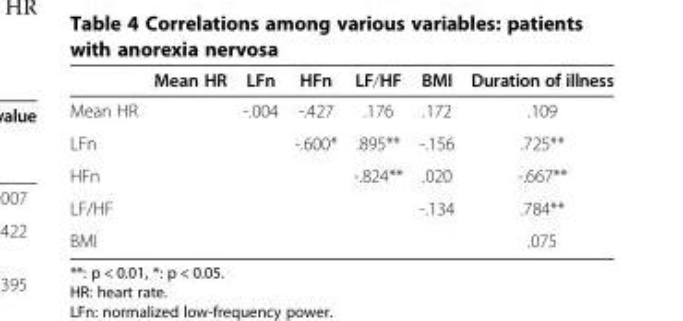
<table><thead><tr><td></td><td>Mean HR</td><td>LFn</td><td>HFn</td><td>LF/HF</td><td>BMI</td><td>Duration of illness</td></tr></thead><tbody><tr><td>Mean HR</td><td></td><td>-.004</td><td>-.427</td><td>.176</td><td>.172</td><td>.109</td></tr><tr><td>LFn</td><td></td><td></td><td>-.600*</td><td>.895**</td><td>-.156</td><td>.725**</td></tr><tr><td>HFn</td><td></td><td></td><td></td><td>-.824**</td><td>.020</td><td>-.667**</td></tr><tr><td>LF/HF</td><td></td><td></td><td></td><td></td><td>-.134</td><td>.784**</td></tr><tr><td>BMI</td><td></td><td></td><td></td><td></td><td></td><td>.075</td></tr></tbody></table>